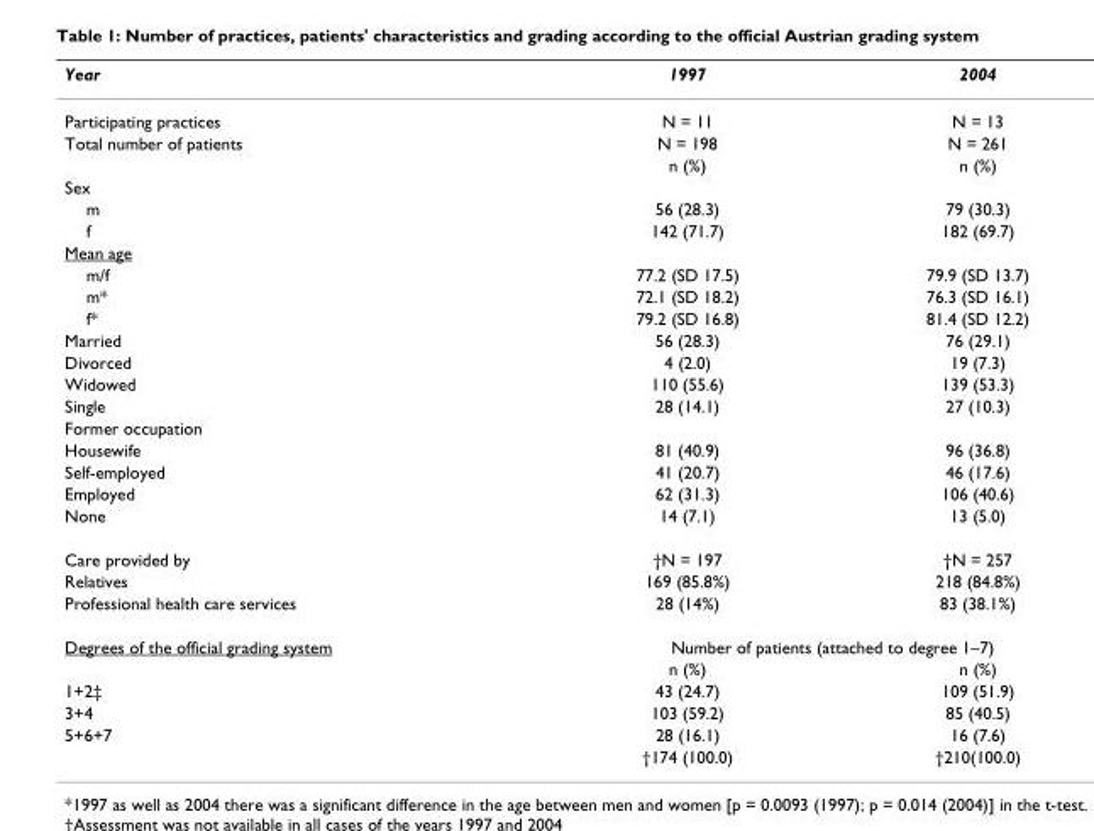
<table><thead><tr><td>Year</td><td>1997</td><td>2004</td></tr></thead><tbody><tr><td>Participating practices</td><td>N = 11</td><td>N = 13</td></tr><tr><td rowspan="2">Total number of patients</td><td>N = 198</td><td>N = 261</td></tr><tr><td>n (%)</td><td>n (%)</td></tr><tr><td colspan="3">Sex</td></tr><tr><td>m</td><td>56 (28.3)</td><td>79 (30.3)</td></tr><tr><td>f</td><td>142 (71.7)</td><td>182 (69.7)</td></tr><tr><td colspan="3">Mean age</td></tr><tr><td>m/f</td><td>77.2 (SD 17.5)</td><td>79.9 (SD 13.7)</td></tr><tr><td>m*</td><td>72.1 (SD 18.2)</td><td>76.3 (SD 16.1)</td></tr><tr><td>f*</td><td>79.2 (SD 16.8)</td><td>81.4 (SD 12.2)</td></tr><tr><td>Married</td><td>56 (28.3)</td><td>76 (29.1)</td></tr><tr><td>Divorced</td><td>4 (2.0)</td><td>19 (7.3)</td></tr><tr><td>Widowed</td><td>110 (55.6)</td><td>139 (53.3)</td></tr><tr><td>Single</td><td>28 (14.1)</td><td>27 (10.3)</td></tr><tr><td colspan="3">Former occupation</td></tr><tr><td>Housewife</td><td>81 (40.9)</td><td>96 (36.8)</td></tr><tr><td>Self-employed</td><td>41 (20.7)</td><td>46 (17.6)</td></tr><tr><td>Employed</td><td>62 (31.3)</td><td>106 (40.6)</td></tr><tr><td>None</td><td>14 (7.1)</td><td>13 (5.0)</td></tr><tr><td>Care provided by</td><td>†N = 197</td><td>†N = 257</td></tr><tr><td>Relatives</td><td>169 (85.8%)</td><td>218 (84.8%)</td></tr><tr><td>Professional health care services</td><td>28 (14%)</td><td>83 (38.1%)</td></tr><tr><td rowspan="2">Degrees of the official grading system</td><td colspan="2">Number of patients (attached to degree 1–7)</td></tr><tr><td>n (%)</td><td>n (%)</td></tr><tr><td>1+2‡</td><td>43 (24.7)</td><td>109 (51.9)</td></tr><tr><td>3+4</td><td>103 (59.2)</td><td>85 (40.5)</td></tr><tr><td rowspan="2">5+6+7</td><td>28 (16.1)</td><td>16 (7.6)</td></tr><tr><td>†174 (100.0)</td><td>†210(100.0)</td></tr></tbody></table>